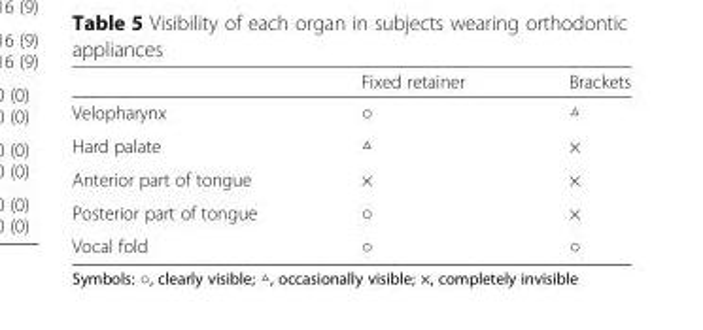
<table><thead><tr><td></td><td>Fixed retainer</td><td>Brackets</td></tr></thead><tbody><tr><td>Velopharynx</td><td>○</td><td>△</td></tr><tr><td>Hard palate</td><td>△</td><td>×</td></tr><tr><td>Anterior part of tongue</td><td>×</td><td>×</td></tr><tr><td>Posterior part of tongue</td><td>○</td><td>×</td></tr><tr><td>Vocal fold</td><td>○</td><td>○</td></tr></tbody></table>